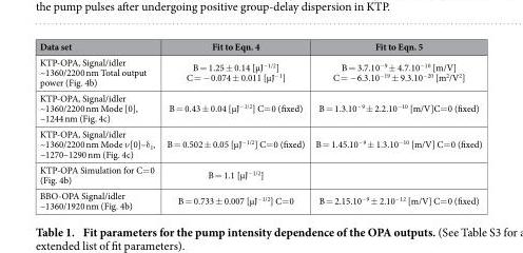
<table><thead><tr><td>Data set</td><td>Fit to Eqn. 4</td><td>Fit to Eqn. 5</td></tr></thead><tbody><tr><td>KTP-OPA, Signal/idler ~1360/2200 nm Total output power (Fig. 4b)</td><td>B = 1.25 ± 0.14 [μJ<sup>−1/2</sup>] C = − 0.074 ± 0.011 [μJ<sup>−1</sup>]</td><td>B = 3.7.10<sup>−9</sup> ± 4.7.10<sup>−10</sup> [m/V] C = − 6.3.10<sup>−19</sup> ± 9.3.10<sup>−20</sup> [m<sup>2</sup>/V<sup>2</sup>]</td></tr><tr><td>KTP-OPA, Signal/idler ~1360/2200 nm Mode [0], ~1244 nm (Fig. 4c)</td><td>B = 0.43 ± 0.04 [μJ<sup>−1/2</sup>] C= 0 (fixed)</td><td>B = 1.3.10<sup>−9</sup> ± 2.2.10<sup>−10</sup> [m/V]C= 0 (fixed)</td></tr><tr><td>KTP-OPA, Signal/idler ~1360/2200 nm Mode ν [0]–δ <sub>1</sub>, ~1270–1290 nm (Fig. 4c)</td><td>B = 0.502 ± 0.05 [μJ<sup>−1/2</sup>] C= 0 (fixed)</td><td>B = 1.45.10<sup>−9</sup> ± 1.3.10<sup>−10</sup> [m/V] C= 0 (fixed)</td></tr><tr><td>KTP-OPA Simulation for C= 0 (Fig. 4b)</td><td>B = 1.1 [μJ<sup>−1/2</sup>]</td><td></td></tr><tr><td>BBO-OPA Signal/idler ~1360/1920 nm (Fig. 4b)</td><td>B = 0.733 ± 0.007 [μJ<sup>−1/2</sup>] C= 0</td><td>B = 2.15.10<sup>−9</sup> ± 2.10<sup>−12</sup> [m/V] C= 0 (fixed)</td></tr></tbody></table>